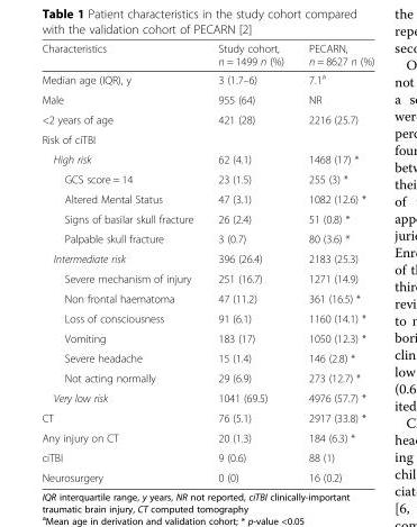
<table><thead><tr><td>Characteristics</td><td>Study cohort, n = 1499 n (%)</td><td>PECARN, n = 8627 n (%)</td></tr></thead><tbody><tr><td>Median age (IQR), y</td><td>3 (1.7–6)</td><td>7.1<sup>a</sup></td></tr><tr><td>Male</td><td>955 (64)</td><td>NR</td></tr><tr><td>&lt;2 years of age</td><td>421 (28)</td><td>2216 (25.7)</td></tr><tr><td colspan="3">Risk of ciTBI</td></tr><tr><td>High risk</td><td>62 (4.1)</td><td>1468 (17) *</td></tr><tr><td>GCS score = 14</td><td>23 (1.5)</td><td>255 (3) *</td></tr><tr><td>Altered Mental Status</td><td>47 (3.1)</td><td>1082 (12.6) *</td></tr><tr><td>Signs of basilar skull fracture</td><td>26 (2.4)</td><td>51 (0.8) *</td></tr><tr><td>Palpable skull fracture</td><td>3 (0.7)</td><td>80 (3.6) *</td></tr><tr><td>Intermediate risk</td><td>396 (26.4)</td><td>2183 (25.3)</td></tr><tr><td>Severe mechanism of injury</td><td>251 (16.7)</td><td>1271 (14.9)</td></tr><tr><td>Non frontal haematoma</td><td>47 (11.2)</td><td>361 (16.5) *</td></tr><tr><td>Loss of consciousness</td><td>91 (6.1)</td><td>1160 (14.1) *</td></tr><tr><td>Vomiting</td><td>183 (17)</td><td>1050 (12.3) *</td></tr><tr><td>Severe headache</td><td>15 (1.4)</td><td>146 (2.8) *</td></tr><tr><td>Not acting normally</td><td>29 (6.9)</td><td>273 (12.7) *</td></tr><tr><td>Very low risk</td><td>1041 (69.5)</td><td>4976 (57.7) *</td></tr><tr><td>CT</td><td>76 (5.1)</td><td>2917 (33.8) *</td></tr><tr><td>Any injury on CT</td><td>20 (1.3)</td><td>184 (6.3) *</td></tr><tr><td>ciTBI</td><td>9 (0.6)</td><td>88 (1)</td></tr><tr><td>Neurosurgery</td><td>0 (0)</td><td>16 (0.2)</td></tr></tbody></table>